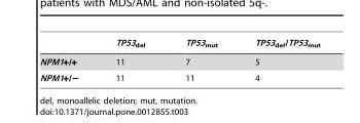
<table><thead><tr><td></td><td>TP53<sub>del</sub></td><td>TP53<sub>mut</sub></td><td>TP53<sub>del</sub>/TP53<sub>mut</sub></td></tr></thead><tbody><tr><td>NPM1+/+</td><td>11</td><td>7</td><td>5</td></tr><tr><td>NPM1+/−</td><td>11</td><td>11</td><td>4</td></tr></tbody></table>